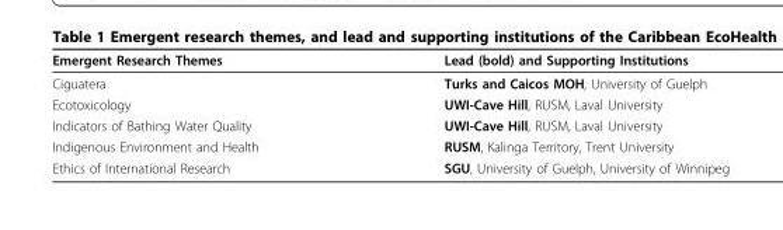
<table><thead><tr><td>Emergent Research Themes</td><td>Lead (bold) and Supporting Institutions</td></tr></thead><tbody><tr><td>Ciguatera</td><td>Turks and Caicos MOH, University of Guelph</td></tr><tr><td>Ecotoxicology</td><td>UWI-Cave Hill, RUSM, Laval University</td></tr><tr><td>Indicators of Bathing Water Quality</td><td>UWI-Cave Hill, RUSM, Laval University</td></tr><tr><td>Indigenous Environment and Health</td><td>RUSM, Kalinga Territory, Trent University</td></tr><tr><td>Ethics of International Research</td><td>SGU, University of Guelph, University of Winnipeg</td></tr></tbody></table>